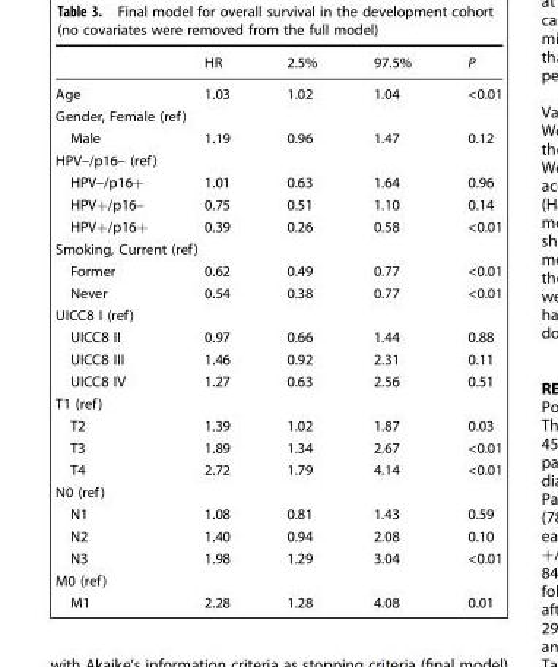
<table><thead><tr><td></td><td>HR</td><td>2.5%</td><td>97.5%</td><td>P</td></tr></thead><tbody><tr><td>Age</td><td>1.03</td><td>1.02</td><td>1.04</td><td>&lt;0.01</td></tr><tr><td colspan="5">Gender, Female (ref)</td></tr><tr><td>Male</td><td>1.19</td><td>0.96</td><td>1.47</td><td>0.12</td></tr><tr><td colspan="5">HPV–/p16– (ref)</td></tr><tr><td>HPV–/p16+</td><td>1.01</td><td>0.63</td><td>1.64</td><td>0.96</td></tr><tr><td>HPV+/p16–</td><td>0.75</td><td>0.51</td><td>1.10</td><td>0.14</td></tr><tr><td>HPV+/p16+</td><td>0.39</td><td>0.26</td><td>0.58</td><td>&lt;0.01</td></tr><tr><td colspan="5">Smoking, Current (ref)</td></tr><tr><td>Former</td><td>0.62</td><td>0.49</td><td>0.77</td><td>&lt;0.01</td></tr><tr><td>Never</td><td>0.54</td><td>0.38</td><td>0.77</td><td>&lt;0.01</td></tr><tr><td colspan="5">UICC8 I (ref)</td></tr><tr><td>UICC8 II</td><td>0.97</td><td>0.66</td><td>1.44</td><td>0.88</td></tr><tr><td>UICC8 III</td><td>1.46</td><td>0.92</td><td>2.31</td><td>0.11</td></tr><tr><td>UICC8 IV</td><td>1.27</td><td>0.63</td><td>2.56</td><td>0.51</td></tr><tr><td colspan="5">T1 (ref)</td></tr><tr><td>T2</td><td>1.39</td><td>1.02</td><td>1.87</td><td>0.03</td></tr><tr><td>T3</td><td>1.89</td><td>1.34</td><td>2.67</td><td>&lt;0.01</td></tr><tr><td>T4</td><td>2.72</td><td>1.79</td><td>4.14</td><td>&lt;0.01</td></tr><tr><td colspan="5">N0 (ref)</td></tr><tr><td>N1</td><td>1.08</td><td>0.81</td><td>1.43</td><td>0.59</td></tr><tr><td>N2</td><td>1.40</td><td>0.94</td><td>2.08</td><td>0.10</td></tr><tr><td>N3</td><td>1.98</td><td>1.29</td><td>3.04</td><td>&lt;0.01</td></tr><tr><td colspan="5">M0 (ref)</td></tr><tr><td>M1</td><td>2.28</td><td>1.28</td><td>4.08</td><td>0.01</td></tr></tbody></table>